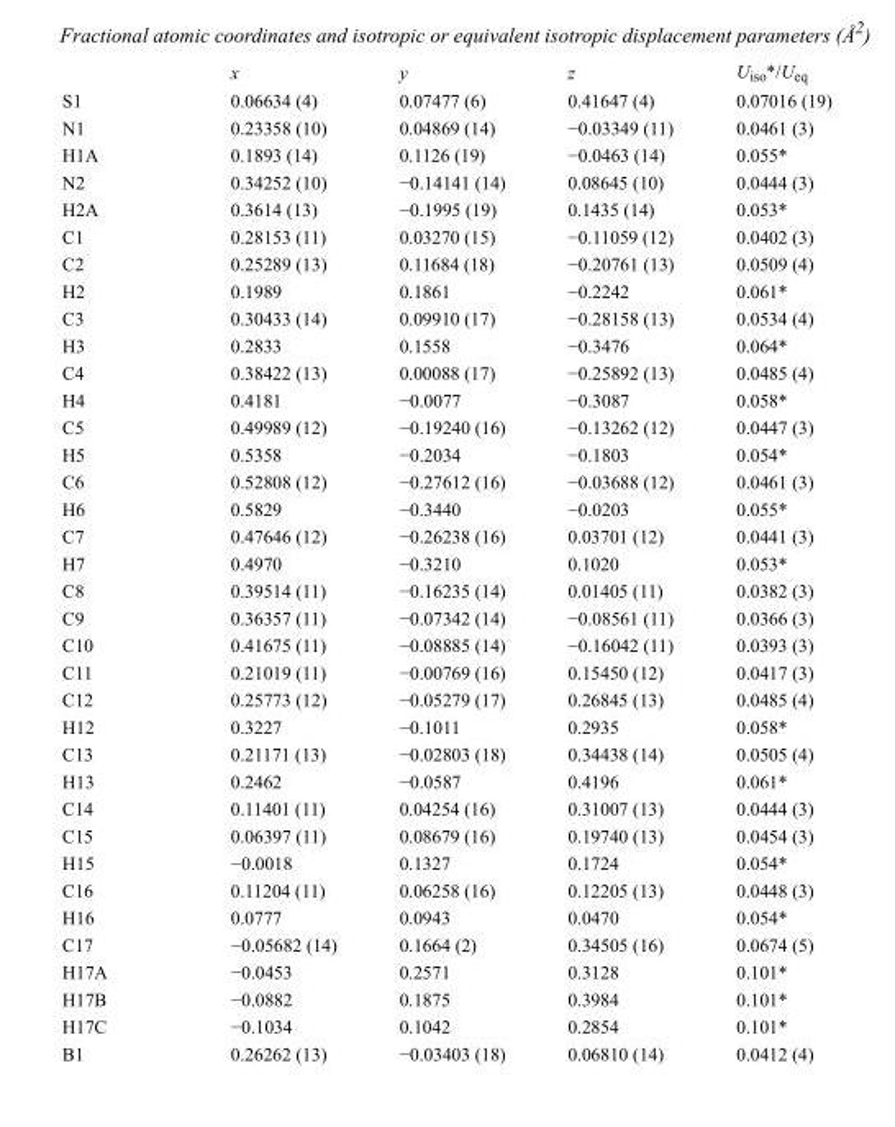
<table><thead><tr><td></td><td>x</td><td>y</td><td>z</td><td>U<sub>iso</sub>*/U<sub>eq</sub></td></tr></thead><tbody><tr><td>S1</td><td>0.06634 (4)</td><td>0.07477 (6)</td><td>0.41647 (4)</td><td>0.07016 (19)</td></tr><tr><td>N1</td><td>0.23358 (10)</td><td>0.04869 (14)</td><td>−0.03349 (11)</td><td>0.0461 (3)</td></tr><tr><td>H1A</td><td>0.1893 (14)</td><td>0.1126 (19)</td><td>−0.0463 (14)</td><td>0.055*</td></tr><tr><td>N2</td><td>0.34252 (10)</td><td>−0.14141 (14)</td><td>0.08645 (10)</td><td>0.0444 (3)</td></tr><tr><td>H2A</td><td>0.3614 (13)</td><td>−0.1995 (19)</td><td>0.1435 (14)</td><td>0.053*</td></tr><tr><td>C1</td><td>0.28153 (11)</td><td>0.03270 (15)</td><td>−0.11059 (12)</td><td>0.0402 (3)</td></tr><tr><td>C2</td><td>0.25289 (13)</td><td>0.11684 (18)</td><td>−0.20761 (13)</td><td>0.0509 (4)</td></tr><tr><td>H2</td><td>0.1989</td><td>0.1861</td><td>−0.2242</td><td>0.061*</td></tr><tr><td>C3</td><td>0.30433 (14)</td><td>0.09910 (17)</td><td>−0.28158 (13)</td><td>0.0534 (4)</td></tr><tr><td>H3</td><td>0.2833</td><td>0.1558</td><td>−0.3476</td><td>0.064*</td></tr><tr><td>C4</td><td>0.38422 (13)</td><td>0.00088 (17)</td><td>−0.25892 (13)</td><td>0.0485 (4)</td></tr><tr><td>H4</td><td>0.4181</td><td>−0.0077</td><td>−0.3087</td><td>0.058*</td></tr><tr><td>C5</td><td>0.49989 (12)</td><td>−0.19240 (16)</td><td>−0.13262 (12)</td><td>0.0447 (3)</td></tr><tr><td>H5</td><td>0.5358</td><td>−0.2034</td><td>−0.1803</td><td>0.054*</td></tr><tr><td>C6</td><td>0.52808 (12)</td><td>−0.27612 (16)</td><td>−0.03688 (12)</td><td>0.0461 (3)</td></tr><tr><td>H6</td><td>0.5829</td><td>−0.3440</td><td>−0.0203</td><td>0.055*</td></tr><tr><td>C7</td><td>0.47646 (12)</td><td>−0.26238 (16)</td><td>0.03701 (12)</td><td>0.0441 (3)</td></tr><tr><td>H7</td><td>0.4970</td><td>−0.3210</td><td>0.1020</td><td>0.053*</td></tr><tr><td>C8</td><td>0.39514 (11)</td><td>−0.16235 (14)</td><td>0.01405 (11)</td><td>0.0382 (3)</td></tr><tr><td>C9</td><td>0.36357 (11)</td><td>−0.07342 (14)</td><td>−0.08561 (11)</td><td>0.0366 (3)</td></tr><tr><td>C10</td><td>0.41675 (11)</td><td>−0.08885 (14)</td><td>−0.16042 (11)</td><td>0.0393 (3)</td></tr><tr><td>C11</td><td>0.21019 (11)</td><td>−0.00769 (16)</td><td>0.15450 (12)</td><td>0.0417 (3)</td></tr><tr><td>C12</td><td>0.25773 (12)</td><td>−0.05279 (17)</td><td>0.26845 (13)</td><td>0.0485 (4)</td></tr><tr><td>H12</td><td>0.3227</td><td>−0.1011</td><td>0.2935</td><td>0.058*</td></tr><tr><td>C13</td><td>0.21171 (13)</td><td>−0.02803 (18)</td><td>0.34438 (14)</td><td>0.0505 (4)</td></tr><tr><td>H13</td><td>0.2462</td><td>−0.0587</td><td>0.4196</td><td>0.061*</td></tr><tr><td>C14</td><td>0.11401 (11)</td><td>0.04254 (16)</td><td>0.31007 (13)</td><td>0.0444 (3)</td></tr><tr><td>C15</td><td>0.06397 (11)</td><td>0.08679 (16)</td><td>0.19740 (13)</td><td>0.0454 (3)</td></tr><tr><td>H15</td><td>−0.0018</td><td>0.1327</td><td>0.1724</td><td>0.054*</td></tr><tr><td>C16</td><td>0.11204 (11)</td><td>0.06258 (16)</td><td>0.12205 (13)</td><td>0.0448 (3)</td></tr><tr><td>H16</td><td>0.0777</td><td>0.0943</td><td>0.0470</td><td>0.054*</td></tr><tr><td>C17</td><td>−0.05682 (14)</td><td>0.1664 (2)</td><td>0.34505 (16)</td><td>0.0674 (5)</td></tr><tr><td>H17A</td><td>−0.0453</td><td>0.2571</td><td>0.3128</td><td>0.101*</td></tr><tr><td>H17B</td><td>−0.0882</td><td>0.1875</td><td>0.3984</td><td>0.101*</td></tr><tr><td>H17C</td><td>−0.1034</td><td>0.1042</td><td>0.2854</td><td>0.101*</td></tr><tr><td>B1</td><td>0.26262 (13)</td><td>−0.03403 (18)</td><td>0.06810 (14)</td><td>0.0412 (4)</td></tr></tbody></table>